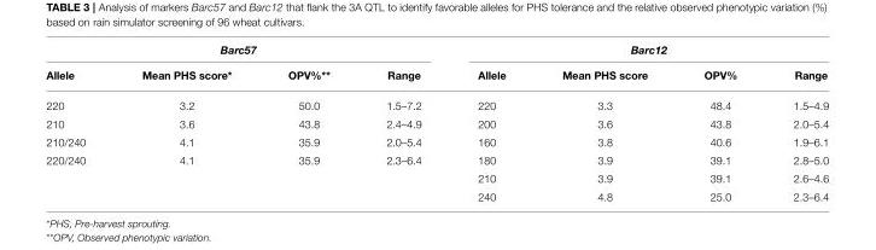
<table><thead><tr><td colspan="4">Barc57</td><td colspan="4">Barc12</td></tr><tr><td>Allele</td><td>Mean PHS score*</td><td>OPV%**</td><td>Range</td><td>Allele</td><td>Mean PHS score</td><td>OPV%</td><td>Range</td></tr></thead><tbody><tr><td>220</td><td>3.2</td><td>50.0</td><td>1.5–7.2</td><td>220</td><td>3.3</td><td>48.4</td><td>1.5–4.9</td></tr><tr><td>210</td><td>3.6</td><td>43.8</td><td>2.4–4.9</td><td>200</td><td>3.6</td><td>43.8</td><td>2.0–5.4</td></tr><tr><td>210/240</td><td>4.1</td><td>35.9</td><td>2.0–5.4</td><td>160</td><td>3.8</td><td>40.6</td><td>1.9–6.1</td></tr><tr><td rowspan="3">220/240</td><td>4.1</td><td>35.9</td><td>2.3–6.4</td><td>180</td><td>3.9</td><td>39.1</td><td>2.8–5.0</td></tr><tr><td></td><td></td><td></td><td>210</td><td>3.9</td><td>39.1</td><td>2.6–4.6</td></tr><tr><td></td><td></td><td></td><td>240</td><td>4.8</td><td>25.0</td><td>2.3–6.4</td></tr></tbody></table>